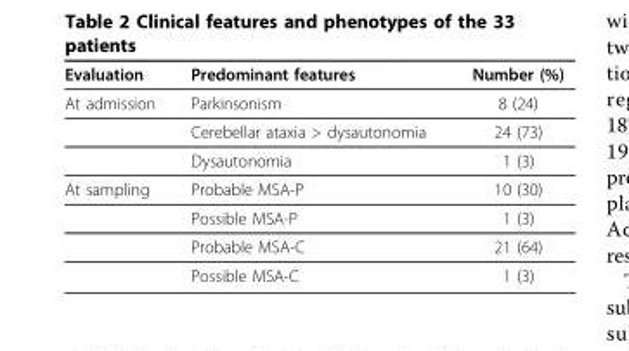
<table><thead><tr><td>Evaluation</td><td>Predominant features</td><td>Number (%)</td></tr></thead><tbody><tr><td rowspan="3">At admission</td><td>Parkinsonism</td><td>8 (24)</td></tr><tr><td>Cerebellar ataxia &gt; dysautonomia</td><td>24 (73)</td></tr><tr><td>Dysautonomia</td><td>1 (3)</td></tr><tr><td rowspan="4">At sampling</td><td>Probable MSA-P</td><td>10 (30)</td></tr><tr><td>Possible MSA-P</td><td>1 (3)</td></tr><tr><td>Probable MSA-C</td><td>21 (64)</td></tr><tr><td>Possible MSA-C</td><td>1 (3)</td></tr></tbody></table>